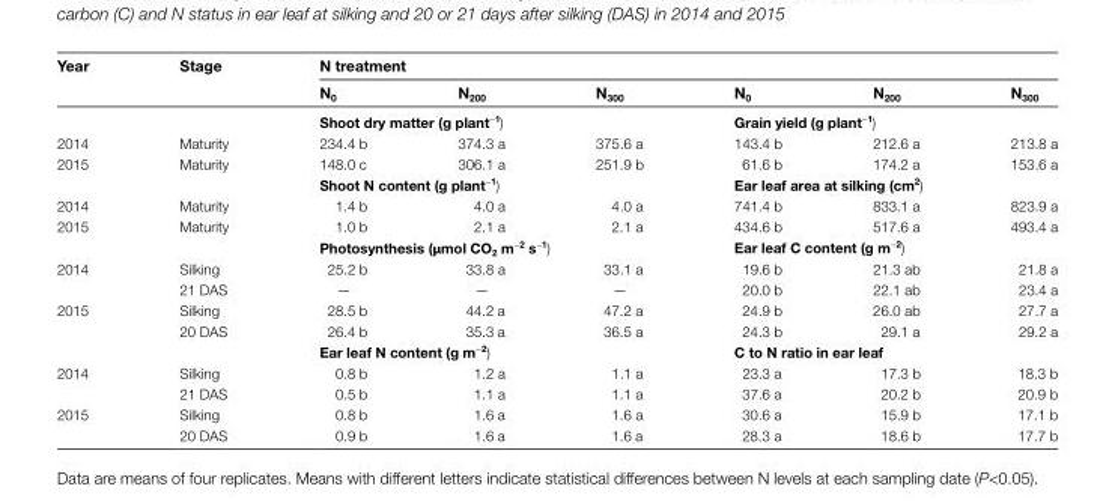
<table><thead><tr><td rowspan="2">Year</td><td rowspan="2">Stage</td><td colspan="6">N treatment</td></tr><tr><td>N<sub>0</sub></td><td>N<sub>200</sub></td><td>N<sub>300</sub></td><td>N<sub>0</sub></td><td>N<sub>200</sub></td><td>N<sub>300</sub></td></tr></thead><tbody><tr><td></td><td></td><td colspan="3">Shoot dry matter (g plant<sup>−1</sup>)</td><td colspan="3">Grain yield (g plant<sup>−1</sup>)</td></tr><tr><td>2014</td><td>Maturity</td><td>234.4 b</td><td>374.3 a</td><td>375.6 a</td><td>143.4 b</td><td>212.6 a</td><td>213.8 a</td></tr><tr><td rowspan="2">2015</td><td>Maturity</td><td>148.0 c</td><td>306.1 a</td><td>251.9 b</td><td>61.6 b</td><td>174.2 a</td><td>153.6 a</td></tr><tr><td></td><td colspan="3">Shoot N content (g plant<sup>−1</sup>)</td><td colspan="3">Ear leaf area at silking (cm<sup>2</sup>)</td></tr><tr><td>2014</td><td>Maturity</td><td>1.4 b</td><td>4.0 a</td><td>4.0 a</td><td>741.4 b</td><td>833.1 a</td><td>823.9 a</td></tr><tr><td rowspan="2">2015</td><td>Maturity</td><td>1.0 b</td><td>2.1 a</td><td>2.1 a</td><td>434.6 b</td><td>517.6 a</td><td>493.4 a</td></tr><tr><td></td><td colspan="3">Photosynthesis (μmol CO<sub>2</sub> m<sup>−2</sup> s<sup>−1</sup>)</td><td colspan="3">Ear leaf C content (g m<sup>−2</sup>)</td></tr><tr><td rowspan="2">2014</td><td>Silking</td><td>25.2 b</td><td>33.8 a</td><td>33.1 a</td><td>19.6 b</td><td>21.3 ab</td><td>21.8 a</td></tr><tr><td>21 DAS</td><td>—</td><td>—</td><td>—</td><td>20.0 b</td><td>22.1 ab</td><td>23.4 a</td></tr><tr><td rowspan="3">2015</td><td>Silking</td><td>28.5 b</td><td>44.2 a</td><td>47.2 a</td><td>24.9 b</td><td>26.0 ab</td><td>27.7 a</td></tr><tr><td>20 DAS</td><td>26.4 b</td><td>35.3 a</td><td>36.5 a</td><td>24.3 b</td><td>29.1 a</td><td>29.2 a</td></tr><tr><td></td><td colspan="3">Ear leaf N content (g m<sup>−2</sup>)</td><td colspan="3">C to N ratio in ear leaf</td></tr><tr><td rowspan="2">2014</td><td>Silking</td><td>0.8 b</td><td>1.2 a</td><td>1.1 a</td><td>23.3 a</td><td>17.3 b</td><td>18.3 b</td></tr><tr><td>21 DAS</td><td>0.5 b</td><td>1.1 a</td><td>1.1 a</td><td>37.6 a</td><td>20.2 b</td><td>20.9 b</td></tr><tr><td rowspan="2">2015</td><td>Silking</td><td>0.8 b</td><td>1.6 a</td><td>1.6 a</td><td>30.6 a</td><td>15.9 b</td><td>17.1 b</td></tr><tr><td>20 DAS</td><td>0.9 b</td><td>1.6 a</td><td>1.6 a</td><td>28.3 a</td><td>18.6 b</td><td>17.7 b</td></tr></tbody></table>